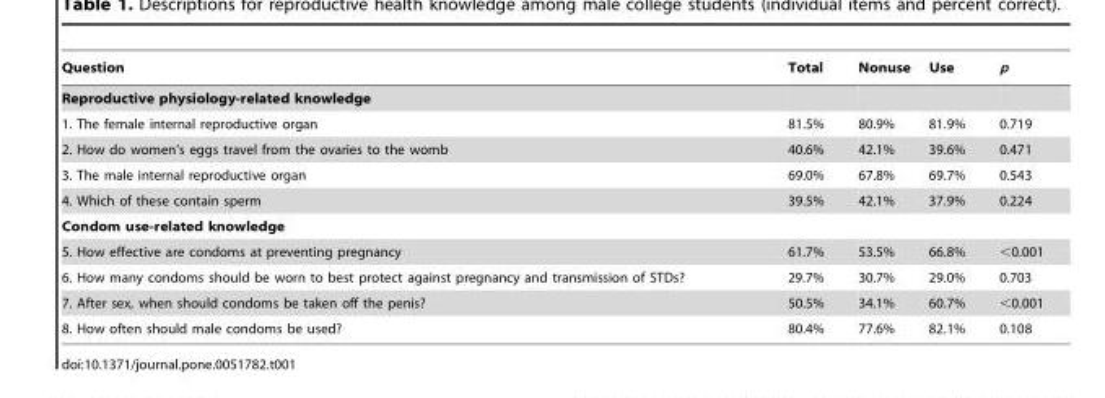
<table><thead><tr><td>Question</td><td>Total</td><td>Nonuse</td><td>Use</td><td>p</td></tr></thead><tbody><tr><td colspan="5">Reproductive physiology-related knowledge</td></tr><tr><td>1. The female internal reproductive organ</td><td>81.5%</td><td>80.9%</td><td>81.9%</td><td>0.719</td></tr><tr><td>2. How do women’s eggs travel from the ovaries to the womb</td><td>40.6%</td><td>42.1%</td><td>39.6%</td><td>0.471</td></tr><tr><td>3. The male internal reproductive organ</td><td>69.0%</td><td>67.8%</td><td>69.7%</td><td>0.543</td></tr><tr><td>4. Which of these contain sperm</td><td>39.5%</td><td>42.1%</td><td>37.9%</td><td>0.224</td></tr><tr><td colspan="5">Condom use-related knowledge</td></tr><tr><td>5. How effective are condoms at preventing pregnancy</td><td>61.7%</td><td>53.5%</td><td>66.8%</td><td>&lt;0.001</td></tr><tr><td>6. How many condoms should be worn to best protect against pregnancy and transmission of STDs?</td><td>29.7%</td><td>30.7%</td><td>29.0%</td><td>0.703</td></tr><tr><td>7. After sex, when should condoms be taken off the penis?</td><td>50.5%</td><td>34.1%</td><td>60.7%</td><td>&lt;0.001</td></tr><tr><td>8. How often should male condoms be used?</td><td>80.4%</td><td>77.6%</td><td>82.1%</td><td>0.108</td></tr></tbody></table>